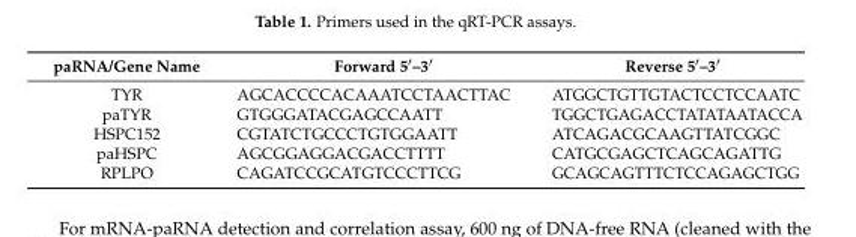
<table><thead><tr><td>paRNA/Gene Name</td><td>Forward 5′–3′</td><td>Reverse 5′–3′</td></tr></thead><tbody><tr><td>TYR</td><td>AGCACCCCACAAATCCTAACTTAC</td><td>ATGGCTGTTGTACTCCTCCAATC</td></tr><tr><td>paTYR</td><td>GTGGGATACGAGCCAATT</td><td>TGGCTGAGACCTATATAATACCA</td></tr><tr><td>HSPC152</td><td>CGTATCTGCCCTGTGGAATT</td><td>ATCAGACGCAAGTTATCGGC</td></tr><tr><td>paHSPC</td><td>AGCGGAGGACGACCTTTT</td><td>CATGCGAGCTCAGCAGATTG</td></tr><tr><td>RPLPO</td><td>CAGATCCGCATGTCCCTTCG</td><td>GCAGCAGTTTCTCCAGAGCTGG</td></tr></tbody></table>